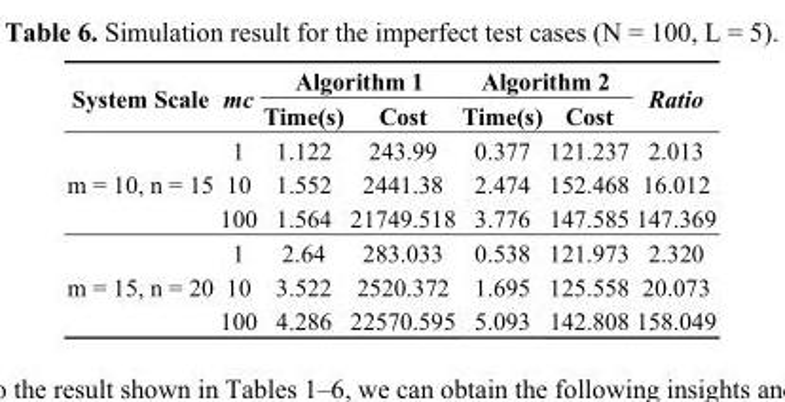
<table><thead><tr><td rowspan="2">System Scale</td><td rowspan="2">mc</td><td colspan="2">Algorithm 1</td><td colspan="2">Algorithm 2</td><td rowspan="2">Ratio</td></tr><tr><td>Time(s)</td><td>Cost</td><td>Time(s)</td><td>Cost</td></tr></thead><tbody><tr><td rowspan="3">m = 10, n = 15</td><td>1</td><td>1.122</td><td>243.99</td><td>0.377</td><td>121.237</td><td>2.013</td></tr><tr><td>10</td><td>1.552</td><td>2441.38</td><td>2.474</td><td>152.468</td><td>16.012</td></tr><tr><td>100</td><td>1.564</td><td>21749.518</td><td>3.776</td><td>147.585</td><td>147.369</td></tr><tr><td rowspan="3">m = 15, n = 20</td><td>1</td><td>2.64</td><td>283.033</td><td>0.538</td><td>121.973</td><td>2.320</td></tr><tr><td>10</td><td>3.522</td><td>2520.372</td><td>1.695</td><td>125.558</td><td>20.073</td></tr><tr><td>100</td><td>4.286</td><td>22570.595</td><td>5.093</td><td>142.808</td><td>158.049</td></tr></tbody></table>